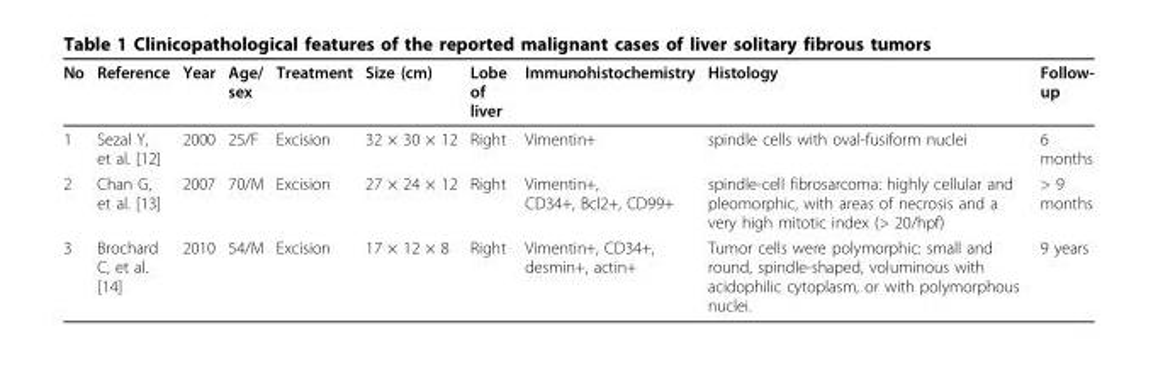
<table><thead><tr><td>No</td><td>Reference</td><td>Year</td><td>Age/ sex</td><td>Treatment</td><td>Size (cm)</td><td>Lobe of liver</td><td>Immunohistochemistry</td><td>Histology</td><td>Follow- up</td></tr></thead><tbody><tr><td>1</td><td>Sezal Y, et al. [12]</td><td>2000</td><td>25/F</td><td>Excision</td><td>32 × 30 × 12</td><td>Right</td><td>Vimentin+</td><td>spindle cells with oval-fusiform nuclei</td><td>6 months</td></tr><tr><td>2</td><td>Chan G, et al. [13]</td><td>2007</td><td>70/M</td><td>Excision</td><td>27 × 24 × 12</td><td>Right</td><td>Vimentin+, CD34+, Bcl2+, CD99+</td><td>spindle-cell fibrosarcoma: highly cellular and pleomorphic, with areas of necrosis and a very high mitotic index (&gt; 20/hpf)</td><td>&gt; 9 months</td></tr><tr><td>3</td><td>Brochard C, et al. [14]</td><td>2010</td><td>54/M</td><td>Excision</td><td>17 × 12 × 8</td><td>Right</td><td>Vimentin+, CD34+, desmin+, actin+</td><td>Tumor cells were polymorphic: small and round, spindle-shaped, voluminous with acidophilic cytoplasm, or with polymorphous nuclei.</td><td>9 years</td></tr></tbody></table>